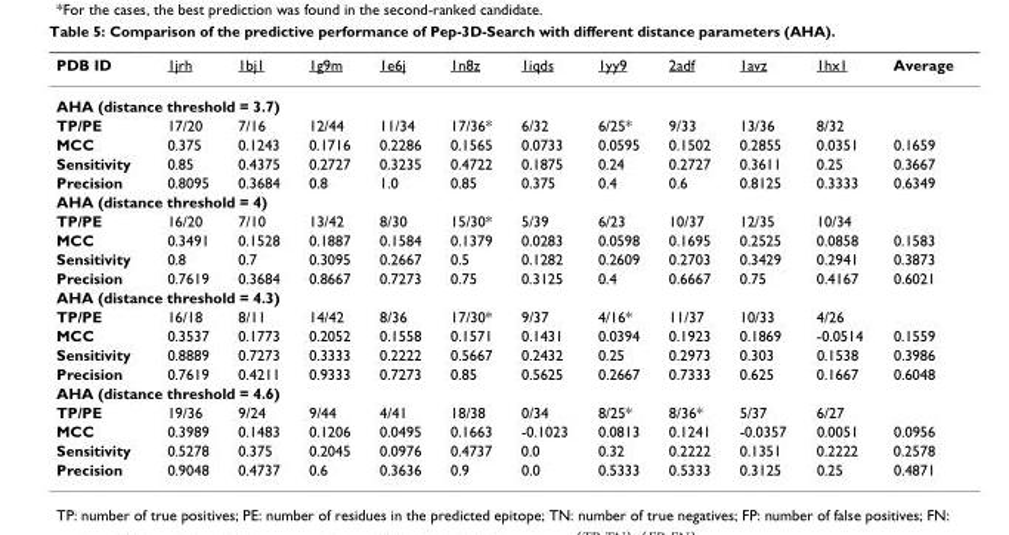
<table><thead><tr><td>PDB ID</td><td>1jrh</td><td>1bj1</td><td>1g9m</td><td>1e6j</td><td>1n8z</td><td>1iqds</td><td>1yy9</td><td>2adf</td><td>1avz</td><td>1hx1</td><td>Average</td></tr></thead><tbody><tr><td colspan="12">AHA (distance threshold = 3.7)</td></tr><tr><td>TP/PE</td><td>17/20</td><td>7/16</td><td>12/44</td><td>11/34</td><td>17/36*</td><td>6/32</td><td>6/25*</td><td>9/33</td><td>13/36</td><td>8/32</td><td></td></tr><tr><td>MCC</td><td>0.375</td><td>0.1243</td><td>0.1716</td><td>0.2286</td><td>0.1565</td><td>0.0733</td><td>0.0595</td><td>0.1502</td><td>0.2855</td><td>0.0351</td><td>0.1659</td></tr><tr><td>Sensitivity</td><td>0.85</td><td>0.4375</td><td>0.2727</td><td>0.3235</td><td>0.4722</td><td>0.1875</td><td>0.24</td><td>0.2727</td><td>0.3611</td><td>0.25</td><td>0.3667</td></tr><tr><td>Precision</td><td>0.8095</td><td>0.3684</td><td>0.8</td><td>1.0</td><td>0.85</td><td>0.375</td><td>0.4</td><td>0.6</td><td>0.8125</td><td>0.3333</td><td>0.6349</td></tr><tr><td colspan="12">AHA (distance threshold = 4)</td></tr><tr><td>TP/PE</td><td>16/20</td><td>7/10</td><td>13/42</td><td>8/30</td><td>15/30*</td><td>5/39</td><td>6/23</td><td>10/37</td><td>12/35</td><td>10/34</td><td></td></tr><tr><td>MCC</td><td>0.3491</td><td>0.1528</td><td>0.1887</td><td>0.1584</td><td>0.1379</td><td>0.0283</td><td>0.0598</td><td>0.1695</td><td>0.2525</td><td>0.0858</td><td>0.1583</td></tr><tr><td>Sensitivity</td><td>0.8</td><td>0.7</td><td>0.3095</td><td>0.2667</td><td>0.5</td><td>0.1282</td><td>0.2609</td><td>0.2703</td><td>0.3429</td><td>0.2941</td><td>0.3873</td></tr><tr><td>Precision</td><td>0.7619</td><td>0.3684</td><td>0.8667</td><td>0.7273</td><td>0.75</td><td>0.3125</td><td>0.4</td><td>0.6667</td><td>0.75</td><td>0.4167</td><td>0.6021</td></tr><tr><td colspan="12">AHA (distance threshold = 4.3)</td></tr><tr><td>TP/PE</td><td>16/18</td><td>8/11</td><td>14/42</td><td>8/36</td><td>17/30*</td><td>9/37</td><td>4/16*</td><td>11/37</td><td>10/33</td><td>4/26</td><td></td></tr><tr><td>MCC</td><td>0.3537</td><td>0.1773</td><td>0.2052</td><td>0.1558</td><td>0.1571</td><td>0.1431</td><td>0.0394</td><td>0.1923</td><td>0.1869</td><td>-0.0514</td><td>0.1559</td></tr><tr><td>Sensitivity</td><td>0.8889</td><td>0.7273</td><td>0.3333</td><td>0.2222</td><td>0.5667</td><td>0.2432</td><td>0.25</td><td>0.2973</td><td>0.303</td><td>0.1538</td><td>0.3986</td></tr><tr><td>Precision</td><td>0.7619</td><td>0.4211</td><td>0.9333</td><td>0.7273</td><td>0.85</td><td>0.5625</td><td>0.2667</td><td>0.7333</td><td>0.625</td><td>0.1667</td><td>0.6048</td></tr><tr><td colspan="12">AHA (distance threshold = 4.6)</td></tr><tr><td>TP/PE</td><td>19/36</td><td>9/24</td><td>9/44</td><td>4/41</td><td>18/38</td><td>0/34</td><td>8/25*</td><td>8/36*</td><td>5/37</td><td>6/27</td><td></td></tr><tr><td>MCC</td><td>0.3989</td><td>0.1483</td><td>0.1206</td><td>0.0495</td><td>0.1663</td><td>-0.1023</td><td>0.0813</td><td>0.1241</td><td>-0.0357</td><td>0.0051</td><td>0.0956</td></tr><tr><td>Sensitivity</td><td>0.5278</td><td>0.375</td><td>0.2045</td><td>0.0976</td><td>0.4737</td><td>0.0</td><td>0.32</td><td>0.2222</td><td>0.1351</td><td>0.2222</td><td>0.2578</td></tr><tr><td>Precision</td><td>0.9048</td><td>0.4737</td><td>0.6</td><td>0.3636</td><td>0.9</td><td>0.0</td><td>0.5333</td><td>0.5333</td><td>0.3125</td><td>0.25</td><td>0.4871</td></tr></tbody></table>